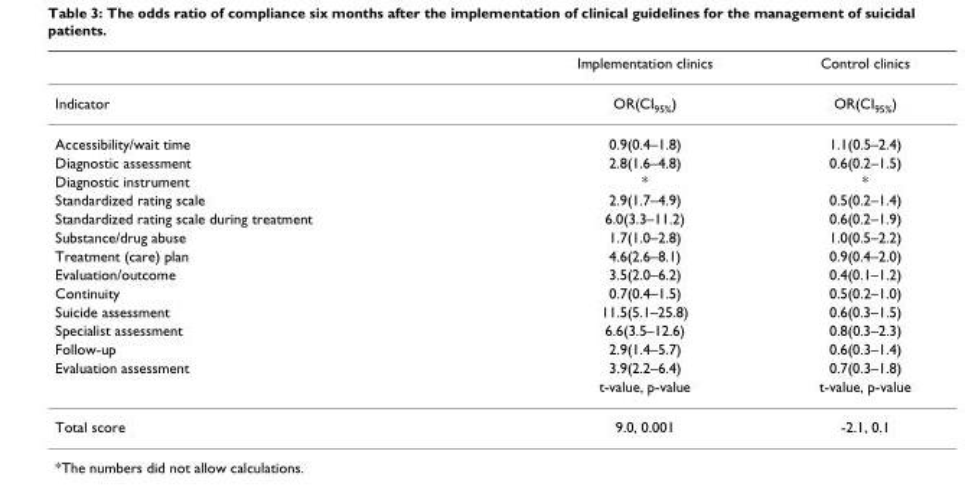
<table><thead><tr><td></td><td>Implementation clinics</td><td>Control clinics</td></tr></thead><tbody><tr><td>Indicator</td><td>OR(CI<sub>95%</sub>)</td><td>OR(CI<sub>95%</sub>)</td></tr><tr><td>Accessibility/wait time</td><td>0.9(0.4–1.8)</td><td>1.1(0.5–2.4)</td></tr><tr><td>Diagnostic assessment</td><td>2.8(1.6–4.8)</td><td>0.6(0.2–1.5)</td></tr><tr><td>Diagnostic instrument</td><td>*</td><td>*</td></tr><tr><td>Standardized rating scale</td><td>2.9(1.7–4.9)</td><td>0.5(0.2–1.4)</td></tr><tr><td>Standardized rating scale during treatment</td><td>6.0(3.3–11.2)</td><td>0.6(0.2–1.9)</td></tr><tr><td>Substance/drug abuse</td><td>1.7(1.0–2.8)</td><td>1.0(0.5–2.2)</td></tr><tr><td>Treatment (care) plan</td><td>4.6(2.6–8.1)</td><td>0.9(0.4–2.0)</td></tr><tr><td>Evaluation/outcome</td><td>3.5(2.0–6.2)</td><td>0.4(0.1–1.2)</td></tr><tr><td>Continuity</td><td>0.7(0.4–1.5)</td><td>0.5(0.2–1.0)</td></tr><tr><td>Suicide assessment</td><td>11.5(5.1–25.8)</td><td>0.6(0.3–1.5)</td></tr><tr><td>Specialist assessment</td><td>6.6(3.5–12.6)</td><td>0.8(0.3–2.3)</td></tr><tr><td>Follow-up</td><td>2.9(1.4–5.7)</td><td>0.6(0.3–1.4)</td></tr><tr><td rowspan="2">Evaluation assessment</td><td>3.9(2.2–6.4)</td><td>0.7(0.3–1.8)</td></tr><tr><td>t-value, p-value</td><td>t-value, p-value</td></tr><tr><td>Total score</td><td>9.0, 0.001</td><td>-2.1, 0.1</td></tr></tbody></table>